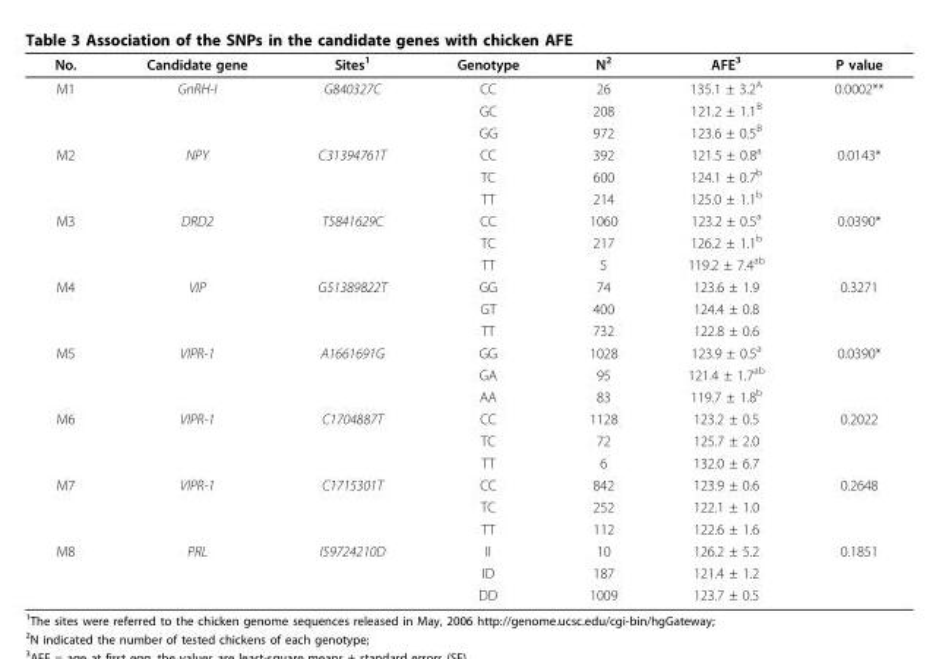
<table><thead><tr><td>No.</td><td>Candidate gene</td><td>Sites<sup>1</sup></td><td>Genotype</td><td>N<sup>2</sup></td><td>AFE<sup>3</sup></td><td>P value</td></tr></thead><tbody><tr><td rowspan="3">M1</td><td>GnRH-I</td><td>G840327C</td><td>CC</td><td>26</td><td>135.1 ± 3.2<sup>A</sup></td><td>0.0002**</td></tr><tr><td></td><td></td><td>GC</td><td>208</td><td>121.2 ± 1.1<sup>B</sup></td><td></td></tr><tr><td></td><td></td><td>GG</td><td>972</td><td>123.6 ± 0.5<sup>B</sup></td><td></td></tr><tr><td rowspan="3">M2</td><td>NPY</td><td>C31394761T</td><td>CC</td><td>392</td><td>121.5 ± 0.8<sup>a</sup></td><td>0.0143*</td></tr><tr><td></td><td></td><td>TC</td><td>600</td><td>124.1 ± 0.7<sup>b</sup></td><td></td></tr><tr><td></td><td></td><td>TT</td><td>214</td><td>125.0 ± 1.1<sup>b</sup></td><td></td></tr><tr><td rowspan="3">M3</td><td>DRD2</td><td>T5841629C</td><td>CC</td><td>1060</td><td>123.2 ± 0.5<sup>a</sup></td><td>0.0390*</td></tr><tr><td></td><td></td><td>TC</td><td>217</td><td>126.2 ± 1.1<sup>b</sup></td><td></td></tr><tr><td></td><td></td><td>TT</td><td>5</td><td>119.2 ± 7.4<sup>ab</sup></td><td></td></tr><tr><td rowspan="3">M4</td><td>VIP</td><td>G51389822T</td><td>GG</td><td>74</td><td>123.6 ± 1.9</td><td>0.3271</td></tr><tr><td></td><td></td><td>GT</td><td>400</td><td>124.4 ± 0.8</td><td></td></tr><tr><td></td><td></td><td>TT</td><td>732</td><td>122.8 ± 0.6</td><td></td></tr><tr><td rowspan="3">M5</td><td>VIPR-1</td><td>A1661691G</td><td>GG</td><td>1028</td><td>123.9 ± 0.5<sup>a</sup></td><td>0.0390*</td></tr><tr><td></td><td></td><td>GA</td><td>95</td><td>121.4 ± 1.7<sup>ab</sup></td><td></td></tr><tr><td></td><td></td><td>AA</td><td>83</td><td>119.7 ± 1.8<sup>b</sup></td><td></td></tr><tr><td rowspan="3">M6</td><td>VIPR-1</td><td>C1704887T</td><td>CC</td><td>1128</td><td>123.2 ± 0.5</td><td>0.2022</td></tr><tr><td></td><td></td><td>TC</td><td>72</td><td>125.7 ± 2.0</td><td></td></tr><tr><td></td><td></td><td>TT</td><td>6</td><td>132.0 ± 6.7</td><td></td></tr><tr><td rowspan="3">M7</td><td>VIPR-1</td><td>C1715301T</td><td>CC</td><td>842</td><td>123.9 ± 0.6</td><td>0.2648</td></tr><tr><td></td><td></td><td>TC</td><td>252</td><td>122.1 ± 1.0</td><td></td></tr><tr><td></td><td></td><td>TT</td><td>112</td><td>122.6 ± 1.6</td><td></td></tr><tr><td rowspan="3">M8</td><td>PRL</td><td>I59724210D</td><td>II</td><td>10</td><td>126.2 ± 5.2</td><td>0.1851</td></tr><tr><td></td><td></td><td>ID</td><td>187</td><td>121.4 ± 1.2</td><td></td></tr><tr><td></td><td></td><td>DD</td><td>1009</td><td>123.7 ± 0.5</td><td></td></tr></tbody></table>